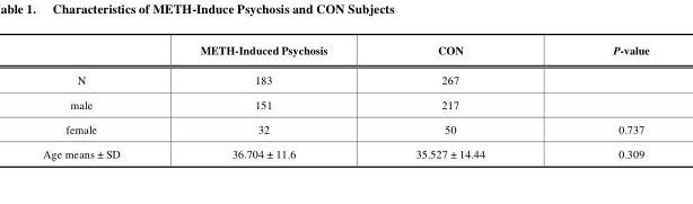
<table><thead><tr><td></td><td>METH-Induced Psychosis</td><td>CON</td><td>P-value</td></tr></thead><tbody><tr><td>N</td><td>183</td><td>267</td><td></td></tr><tr><td>male</td><td>151</td><td>217</td><td></td></tr><tr><td>female</td><td>32</td><td>50</td><td>0.737</td></tr><tr><td>Age means ± SD</td><td>36.704 ± 11.6</td><td>35.527 ± 14.44</td><td>0.309</td></tr></tbody></table>